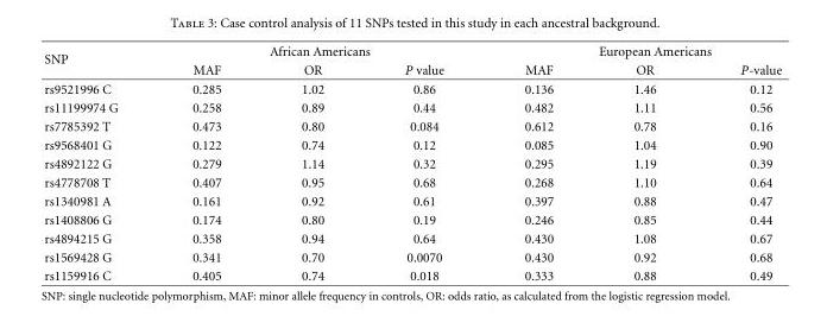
<table><thead><tr><td rowspan="2">SNP</td><td colspan="3">African Americans</td><td colspan="3">European Americans</td></tr><tr><td>MAF</td><td>OR</td><td>P value</td><td>MAF</td><td>OR</td><td>P-value</td></tr></thead><tbody><tr><td>rs9521996 C</td><td>0.285</td><td>1.02</td><td>0.86</td><td>0.136</td><td>1.46</td><td>0.12</td></tr><tr><td>rs11199974 G</td><td>0.258</td><td>0.89</td><td>0.44</td><td>0.482</td><td>1.11</td><td>0.56</td></tr><tr><td>rs7785392 T</td><td>0.473</td><td>0.80</td><td>0.084</td><td>0.612</td><td>0.78</td><td>0.16</td></tr><tr><td>rs9568401 G</td><td>0.122</td><td>0.74</td><td>0.12</td><td>0.085</td><td>1.04</td><td>0.90</td></tr><tr><td>rs4892122 G</td><td>0.279</td><td>1.14</td><td>0.32</td><td>0.295</td><td>1.19</td><td>0.39</td></tr><tr><td>rs4778708 T</td><td>0.407</td><td>0.95</td><td>0.68</td><td>0.268</td><td>1.10</td><td>0.64</td></tr><tr><td>rs1340981 A</td><td>0.161</td><td>0.92</td><td>0.61</td><td>0.397</td><td>0.88</td><td>0.47</td></tr><tr><td>rs1408806 G</td><td>0.174</td><td>0.80</td><td>0.19</td><td>0.246</td><td>0.85</td><td>0.44</td></tr><tr><td>rs4894215 G</td><td>0.358</td><td>0.94</td><td>0.64</td><td>0.430</td><td>1.08</td><td>0.67</td></tr><tr><td>rs1569428 G</td><td>0.341</td><td>0.70</td><td>0.0070</td><td>0.430</td><td>0.92</td><td>0.68</td></tr><tr><td>rs1159916 C</td><td>0.405</td><td>0.74</td><td>0.018</td><td>0.333</td><td>0.88</td><td>0.49</td></tr></tbody></table>